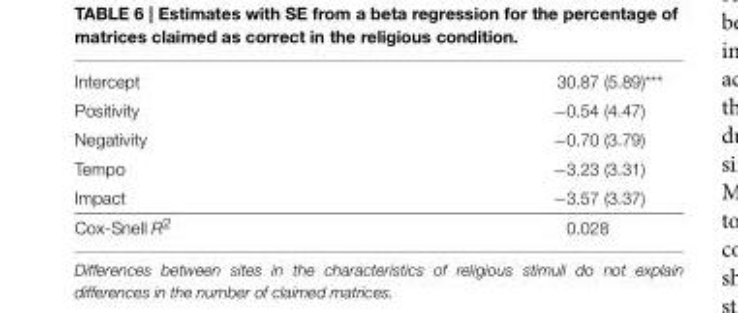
<table><tbody><tr><td>Intercept</td><td>30.87 (5.89)***</td></tr><tr><td>Positivity</td><td>−0.54 (4.47)</td></tr><tr><td>Negativity</td><td>−0.70 (3.79)</td></tr><tr><td>Tempo</td><td>−3.23 (3.31)</td></tr><tr><td>Impact</td><td>−3.57 (3.37)</td></tr><tr><td>Cox-Snell R<sup>2</sup></td><td>0.028</td></tr></tbody></table>